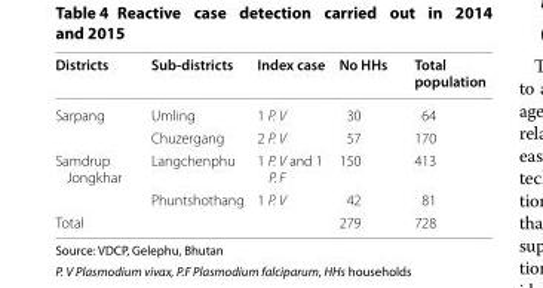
<table><thead><tr><td>Districts</td><td>Sub-districts</td><td>Index case</td><td>No HHs</td><td>Total population</td></tr></thead><tbody><tr><td rowspan="2">Sarpang</td><td>Umling</td><td>1 P. V</td><td>30</td><td>64</td></tr><tr><td>Chuzergang</td><td>2 P. V</td><td>57</td><td>170</td></tr><tr><td rowspan="2">Samdrup Jongkhar</td><td>Langchenphu</td><td>1 P. V and 1 P. F</td><td>150</td><td>413</td></tr><tr><td>Phuntshothang</td><td>1 P. V</td><td>42</td><td>81</td></tr><tr><td colspan="2">Total</td><td></td><td>279</td><td>728</td></tr></tbody></table>